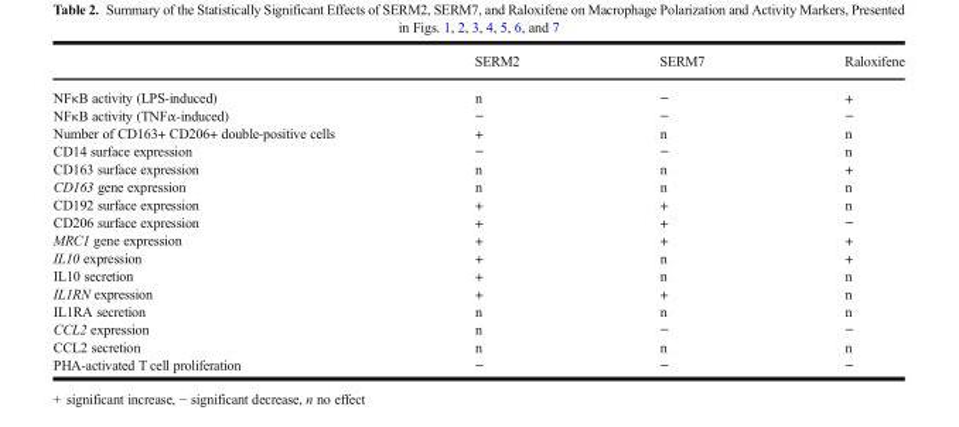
<table><thead><tr><td></td><td>SERM2</td><td>SERM7</td><td>Raloxifene</td></tr></thead><tbody><tr><td>NFκB activity (LPS-induced)</td><td>n</td><td>−</td><td>+</td></tr><tr><td>NFκB activity (TNFα-induced)</td><td>−</td><td>−</td><td>−</td></tr><tr><td>Number of CD163+ CD206+ double-positive cells</td><td>+</td><td>n</td><td>n</td></tr><tr><td>CD14 surface expression</td><td>−</td><td>−</td><td>n</td></tr><tr><td>CD163 surface expression</td><td>n</td><td>n</td><td>+</td></tr><tr><td>CD163 gene expression</td><td>n</td><td>n</td><td>n</td></tr><tr><td>CD192 surface expression</td><td>+</td><td>+</td><td>n</td></tr><tr><td>CD206 surface expression</td><td>+</td><td>+</td><td>−</td></tr><tr><td>MRC1 gene expression</td><td>+</td><td>+</td><td>+</td></tr><tr><td>IL10 expression</td><td>+</td><td>n</td><td>+</td></tr><tr><td>IL10 secretion</td><td>+</td><td>n</td><td>n</td></tr><tr><td>IL1RN expression</td><td>+</td><td>+</td><td>n</td></tr><tr><td>IL1RA secretion</td><td>n</td><td>n</td><td>n</td></tr><tr><td>CCL2 expression</td><td>n</td><td>−</td><td>−</td></tr><tr><td>CCL2 secretion</td><td>n</td><td>n</td><td>n</td></tr><tr><td>PHA-activated T cell proliferation</td><td>−</td><td>−</td><td>−</td></tr></tbody></table>